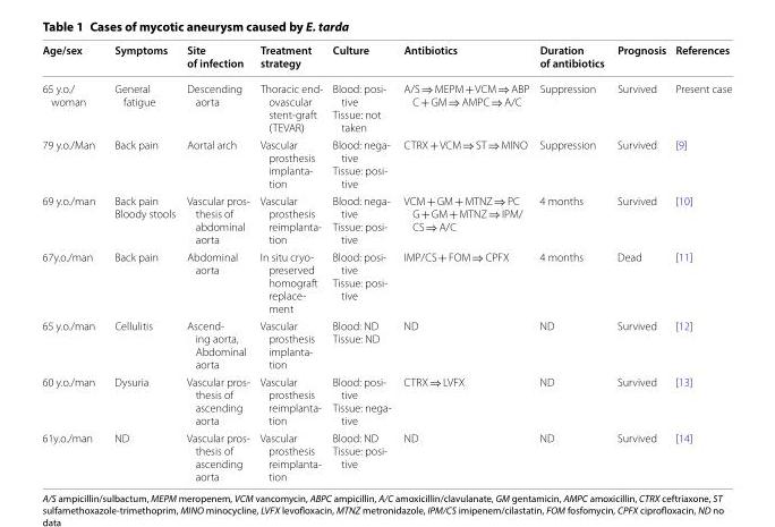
<table><thead><tr><td>Age/sex</td><td>Symptoms</td><td>Site of infection</td><td>Treatment strategy</td><td>Culture</td><td>Antibiotics</td><td>Duration of antibiotics</td><td>Prognosis</td><td>References</td></tr></thead><tbody><tr><td>65 y.o./ woman</td><td>General fatigue</td><td>Descending aorta</td><td>Thoracic end- ovascular stent-graft (TEVAR)</td><td>Blood: posi- tive Tissue: not taken</td><td>A/S ⇒ MEPM + VCM ⇒ ABP C + GM ⇒ AMPC ⇒ A/C</td><td>Suppression</td><td>Survived</td><td>Present case</td></tr><tr><td>79 y.o./Man</td><td>Back pain</td><td>Aortal arch</td><td>Vascular prosthesis implanta- tion</td><td>Blood: nega- tive Tissue: posi- tive</td><td>CTRX + VCM ⇒ ST ⇒ MINO</td><td>Suppression</td><td>Survived</td><td>[9]</td></tr><tr><td>69 y.o./man</td><td>Back pain Bloody stools</td><td>Vascular pros- thesis of abdominal aorta</td><td>Vascular prosthesis reimplanta- tion</td><td>Blood: nega- tive Tissue: posi- tive</td><td>VCM + GM + MTNZ ⇒ PC G + GM + MTNZ ⇒ IPM/ CS ⇒ A/C</td><td>4 months</td><td>Survived</td><td>[10]</td></tr><tr><td>67y.o./man</td><td>Back pain</td><td>Abdominal aorta</td><td>In situ cryo- preserved homograft replace- ment</td><td>Blood: posi- tive Tissue: posi- tive</td><td>IMP/CS + FOM ⇒ CPFX</td><td>4 months</td><td>Dead</td><td>[11]</td></tr><tr><td>65 y.o./man</td><td>Cellulitis</td><td>Ascend- ing aorta, Abdominal aorta</td><td>Vascular prosthesis implanta- tion</td><td>Blood: ND Tissue: ND</td><td>ND</td><td>ND</td><td>Survived</td><td>[12]</td></tr><tr><td>60 y.o./man</td><td>Dysuria</td><td>Vascular pros- thesis of ascending aorta</td><td>Vascular prosthesis reimplanta- tion</td><td>Blood: posi- tive Tissue: nega- tive</td><td>CTRX ⇒ LVFX</td><td>ND</td><td>Survived</td><td>[13]</td></tr><tr><td>61y.o./man</td><td>ND</td><td>Vascular pros- thesis of ascending aorta</td><td>Vascular prosthesis reimplanta- tion</td><td>Blood: ND Tissue: posi- tive</td><td>ND</td><td>ND</td><td>Survived</td><td>[14]</td></tr></tbody></table>